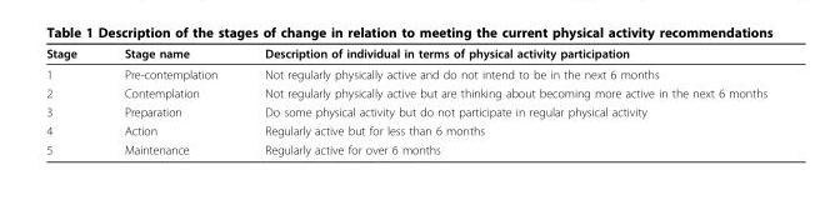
<table><thead><tr><td>Stage</td><td>Stage name</td><td>Description of individual in terms of physical activity participation</td></tr></thead><tbody><tr><td>1</td><td>Pre-contemplation</td><td>Not regularly physically active and do not intend to be in the next 6 months</td></tr><tr><td>2</td><td>Contemplation</td><td>Not regularly physically active but are thinking about becoming more active in the next 6 months</td></tr><tr><td>3</td><td>Preparation</td><td>Do some physical activity but do not participate in regular physical activity</td></tr><tr><td>4</td><td>Action</td><td>Regularly active but for less than 6 months</td></tr><tr><td>5</td><td>Maintenance</td><td>Regularly active for over 6 months</td></tr></tbody></table>